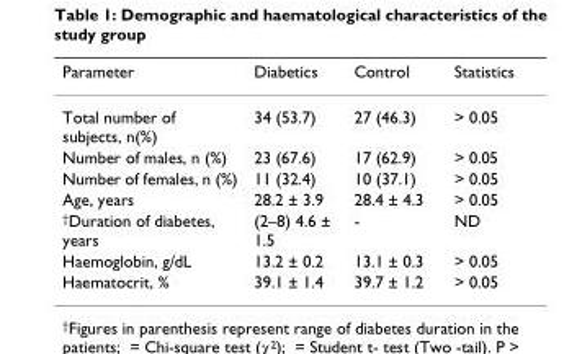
<table><thead><tr><td>Parameter</td><td>Diabetics</td><td>Control</td><td>Statistics</td></tr></thead><tbody><tr><td>Total number of subjects, n(%)</td><td>34 (53.7)</td><td>27 (46.3)</td><td>&gt; 0.05</td></tr><tr><td>Number of males, n (%)</td><td>23 (67.6)</td><td>17 (62.9)</td><td>&gt; 0.05</td></tr><tr><td>Number of females, n (%)</td><td>11 (32.4)</td><td>10 (37.1)</td><td>&gt; 0.05</td></tr><tr><td>Age, years</td><td>28.2 ± 3.9</td><td>28.4 ± 4.3</td><td>&gt; 0.05</td></tr><tr><td><sup>†</sup>Duration of diabetes, years</td><td>(2–8) 4.6 ± 1.5</td><td>-</td><td>ND</td></tr><tr><td>Haemoglobin, g/dL</td><td>13.2 ± 0.2</td><td>13.1 ± 0.3</td><td>&gt; 0.05</td></tr><tr><td>Haematocrit, %</td><td>39.1 ± 1.4</td><td>39.7 ± 1.2</td><td>&gt; 0.05</td></tr></tbody></table>